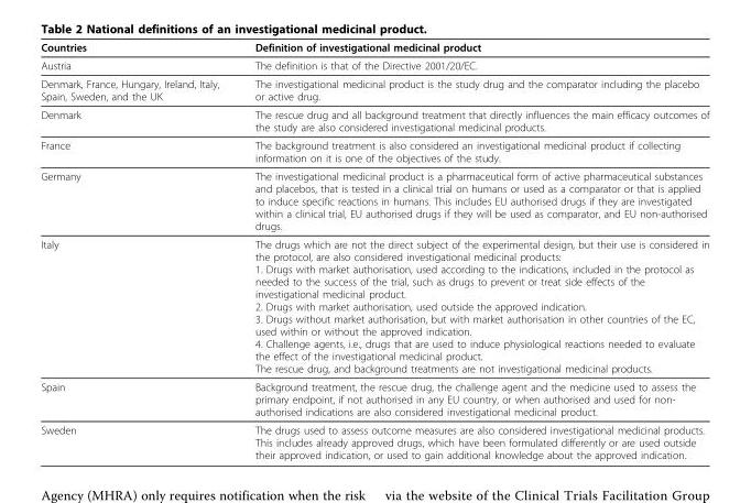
<table><thead><tr><td>Countries</td><td>Definition of investigational medicinal product</td></tr></thead><tbody><tr><td>Austria</td><td>The definition is that of the Directive 2001/20/EC.</td></tr><tr><td>Denmark, France, Hungary, Ireland, Italy, Spain, Sweden, and the UK</td><td>The investigational medicinal product is the study drug and the comparator including the placebo or active drug.</td></tr><tr><td>Denmark</td><td>The rescue drug and all background treatment that directly influences the main efficacy outcomes of the study are also considered investigational medicinal products.</td></tr><tr><td>France</td><td>The background treatment is also considered an investigational medicinal product if collecting information on it is one of the objectives of the study.</td></tr><tr><td>Germany</td><td>The investigational medicinal product is a pharmaceutical form of active pharmaceutical substances and placebos, that is tested in a clinical trial on humans or used as a comparator or that is applied to induce specific reactions in humans. This includes EU authorised drugs if they are investigated within a clinical trial, EU authorised drugs if they will be used as comparator, and EU non-authorised drugs.</td></tr><tr><td>Italy</td><td>The drugs which are not the direct subject of the experimental design, but their use is considered in the protocol, are also considered investigational medicinal products: 1. Drugs with market authorisation, used according to the indications, included in the protocol as needed to the success of the trial, such as drugs to prevent or treat side effects of the investigational medicinal product. 2. Drugs with market authorisation, used outside the approved indication. 3. Drugs without market authorisation, but with market authorisation in other countries of the EC, used within or without the approved indication. 4. Challenge agents, i.e., drugs that are used to induce physiological reactions needed to evaluate the effect of the investigational medicinal product. The rescue drug, and background treatments are not investigational medicinal products.</td></tr><tr><td>Spain</td><td>Background treatment, the rescue drug, the challenge agent and the medicine used to assess the primary endpoint, if not authorised in any EU country, or when authorised and used for non- authorised indications are also considered investigational medicinal product.</td></tr><tr><td>Sweden</td><td>The drugs used to assess outcome measures are also considered investigational medicinal products. This includes already approved drugs, which have been formulated differently or are used outside their approved indication, or used to gain additional knowledge about the approved indication.</td></tr></tbody></table>